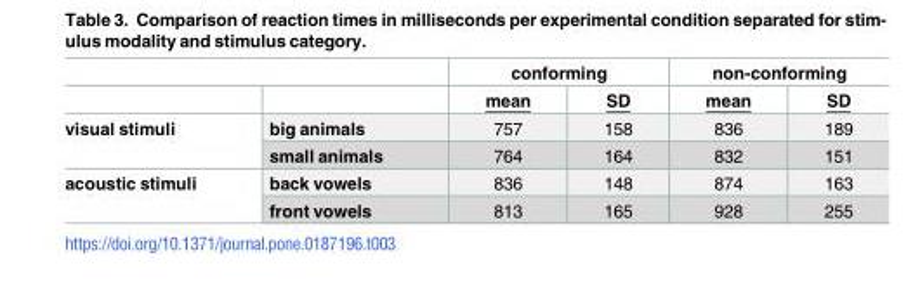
<table><thead><tr><td rowspan="2"></td><td rowspan="2"></td><td colspan="2">conforming</td><td colspan="2">non-conforming</td></tr><tr><td>mean</td><td>SD</td><td>mean</td><td>SD</td></tr></thead><tbody><tr><td rowspan="2">visual stimuli</td><td>big animals</td><td>757</td><td>158</td><td>836</td><td>189</td></tr><tr><td>small animals</td><td>764</td><td>164</td><td>832</td><td>151</td></tr><tr><td rowspan="2">acoustic stimuli</td><td>back vowels</td><td>836</td><td>148</td><td>874</td><td>163</td></tr><tr><td>front vowels</td><td>813</td><td>165</td><td>928</td><td>255</td></tr></tbody></table>